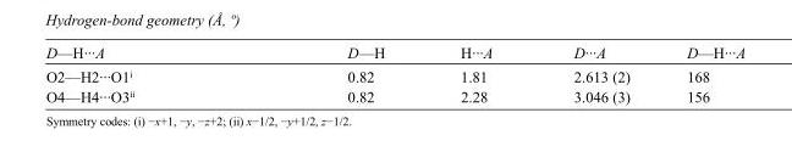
<table><tbody><tr><td>D—H···A</td><td>D—H</td><td>H···A</td><td>D···A</td><td>D—H···A</td></tr><tr><td>O2—H2···O1<sup>i</sup></td><td>0.82</td><td>1.81</td><td>2.613 (2)</td><td>168</td></tr><tr><td>O4—H4···O3<sup>ii</sup></td><td>0.82</td><td>2.28</td><td>3.046 (3)</td><td>156</td></tr></tbody></table>